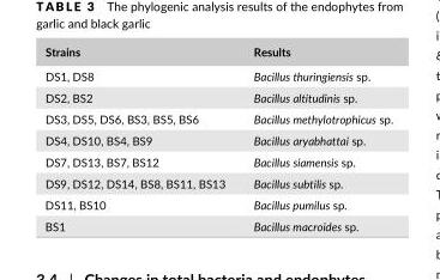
<table><thead><tr><td>Strains</td><td>Results</td></tr></thead><tbody><tr><td>DS1, DS8</td><td>Bacillus thuringiensis sp.</td></tr><tr><td>DS2, BS2</td><td>Bacillus altitudinis sp.</td></tr><tr><td>DS3, DS5, DS6, BS3, BS5, BS6</td><td>Bacillus methylotrophicus sp.</td></tr><tr><td>DS4, DS10, BS4, BS9</td><td>Bacillus aryabhattai sp.</td></tr><tr><td>DS7, DS13, BS7, BS12</td><td>Bacillus siamensis sp.</td></tr><tr><td>DS9, DS12, DS14, BS8, BS11, BS13</td><td>Bacillus subtilis sp.</td></tr><tr><td>DS11, BS10</td><td>Bacillus pumilus sp.</td></tr><tr><td>BS1</td><td>Bacillus macroides sp.</td></tr></tbody></table>